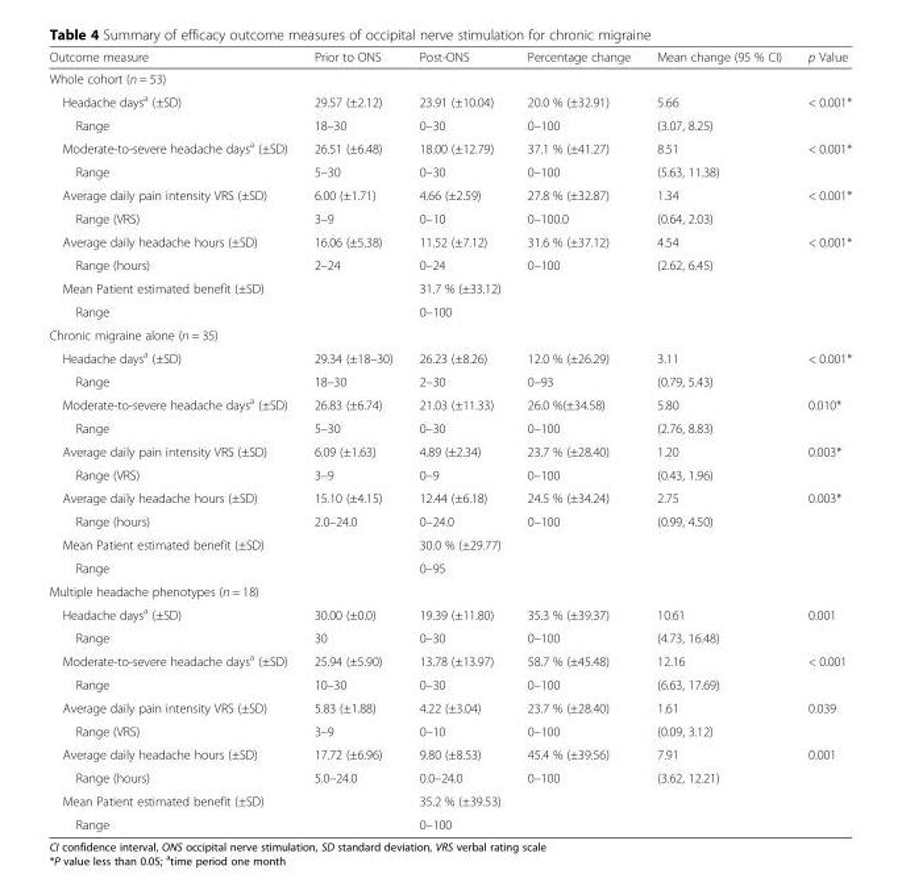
<table><thead><tr><td>Outcome measure</td><td>Prior to ONS</td><td>Post-ONS</td><td>Percentage change</td><td>Mean change (95 % CI)</td><td>p Value</td></tr></thead><tbody><tr><td colspan="6">Whole cohort (n = 53)</td></tr><tr><td>Headache days<sup>a</sup> (±SD)</td><td>29.57 (±2.12)</td><td>23.91 (±10.04)</td><td>20.0 % (±32.91)</td><td>5.66</td><td rowspan="2">&lt; 0.001*</td></tr><tr><td>Range</td><td>18–30</td><td>0–30</td><td>0–100</td><td>(3.07, 8.25)</td></tr><tr><td>Moderate-to-severe headache days<sup>a</sup> (±SD)</td><td>26.51 (±6.48)</td><td>18.00 (±12.79)</td><td>37.1 % (±41.27)</td><td>8.51</td><td rowspan="2">&lt; 0.001*</td></tr><tr><td>Range</td><td>5–30</td><td>0–30</td><td>0–100</td><td>(5.63, 11.38)</td></tr><tr><td>Average daily pain intensity VRS (±SD)</td><td>6.00 (±1.71)</td><td>4.66 (±2.59)</td><td>27.8 % (±32.87)</td><td>1.34</td><td rowspan="2">&lt; 0.001*</td></tr><tr><td>Range (VRS)</td><td>3–9</td><td>0–10</td><td>0–100.0</td><td>(0.64, 2.03)</td></tr><tr><td>Average daily headache hours (±SD)</td><td>16.06 (±5.38)</td><td>11.52 (±7.12)</td><td>31.6 % (±37.12)</td><td>4.54</td><td rowspan="2">&lt; 0.001*</td></tr><tr><td>Range (hours)</td><td>2–24</td><td>0–24</td><td>0–100</td><td>(2.62, 6.45)</td></tr><tr><td>Mean Patient estimated benefit (±SD)</td><td></td><td>31.7 % (±33.12)</td><td></td><td></td><td></td></tr><tr><td>Range</td><td></td><td>0–100</td><td></td><td></td><td></td></tr><tr><td colspan="6">Chronic migraine alone (n = 35)</td></tr><tr><td>Headache days<sup>a</sup> (±SD)</td><td>29.34 (±18–30)</td><td>26.23 (±8.26)</td><td>12.0 % (±26.29)</td><td>3.11</td><td rowspan="2">&lt; 0.001*</td></tr><tr><td>Range</td><td>18–30</td><td>2–30</td><td>0–93</td><td>(0.79, 5.43)</td></tr><tr><td>Moderate-to-severe headache days<sup>a</sup> (±SD)</td><td>26.83 (±6.74)</td><td>21.03 (±11.33)</td><td>26.0 %(±34.58)</td><td>5.80</td><td rowspan="2">0.010*</td></tr><tr><td>Range</td><td>5–30</td><td>0–30</td><td>0–100</td><td>(2.76, 8.83)</td></tr><tr><td>Average daily pain intensity VRS (±SD)</td><td>6.09 (±1.63)</td><td>4.89 (±2.34)</td><td>23.7 % (±28.40)</td><td>1.20</td><td rowspan="2">0.003*</td></tr><tr><td>Range (VRS)</td><td>3–9</td><td>0–9</td><td>0–100</td><td>(0.43, 1.96)</td></tr><tr><td>Average daily headache hours (±SD)</td><td>15.10 (±4.15)</td><td>12.44 (±6.18)</td><td>24.5 % (±34.24)</td><td>2.75</td><td rowspan="2">0.003*</td></tr><tr><td>Range (hours)</td><td>2.0–24.0</td><td>0–24.0</td><td>0–100</td><td>(0.99, 4.50)</td></tr><tr><td>Mean Patient estimated benefit (±SD)</td><td></td><td>30.0 % (±29.77)</td><td></td><td></td><td></td></tr><tr><td>Range</td><td></td><td>0–95</td><td></td><td></td><td></td></tr><tr><td colspan="6">Multiple headache phenotypes (n = 18)</td></tr><tr><td>Headache days<sup>a</sup> (±SD)</td><td>30.00 (±0.0)</td><td>19.39 (±11.80)</td><td>35.3 % (±39.37)</td><td>10.61</td><td rowspan="2">0.001</td></tr><tr><td>Range</td><td>30</td><td>0–30</td><td>0–100</td><td>(4.73, 16.48)</td></tr><tr><td>Moderate-to-severe headache days<sup>a</sup> (±SD)</td><td>25.94 (±5.90)</td><td>13.78 (±13.97)</td><td>58.7 % (±45.48)</td><td>12.16</td><td rowspan="2">&lt; 0.001</td></tr><tr><td>Range</td><td>10–30</td><td>0–30</td><td>0–100</td><td>(6.63, 17.69)</td></tr><tr><td>Average daily pain intensity VRS (±SD)</td><td>5.83 (±1.88)</td><td>4.22 (±3.04)</td><td>23.7 % (±28.40)</td><td>1.61</td><td rowspan="2">0.039</td></tr><tr><td>Range (VRS)</td><td>3–9</td><td>0–10</td><td>0–100</td><td>(0.09, 3.12)</td></tr><tr><td>Average daily headache hours (±SD)</td><td>17.72 (±6.96)</td><td>9.80 (±8.53)</td><td>45.4 % (±39.56)</td><td>7.91</td><td rowspan="2">0.001</td></tr><tr><td>Range (hours)</td><td>5.0–24.0</td><td>0.0–24.0</td><td>0–100</td><td>(3.62, 12.21)</td></tr><tr><td>Mean Patient estimated benefit (±SD)</td><td></td><td>35.2 % (±39.53)</td><td></td><td></td><td></td></tr><tr><td>Range</td><td></td><td>0–100</td><td></td><td></td><td></td></tr></tbody></table>